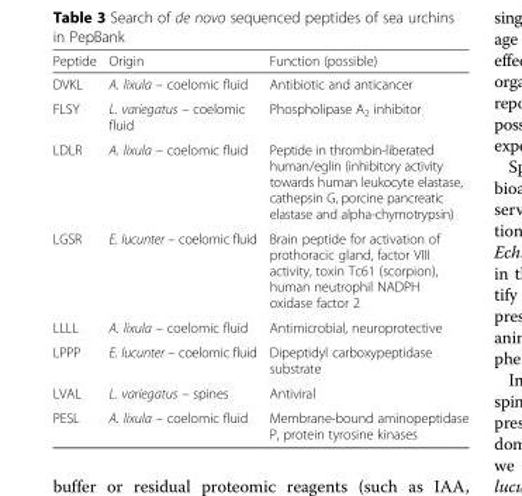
<table><thead><tr><td>Peptide</td><td>Origin</td><td>Function (possible)</td></tr></thead><tbody><tr><td>DVKL</td><td>A. lixula – coelomic fluid</td><td>Antibiotic and anticancer</td></tr><tr><td>FLSY</td><td>L. variegatus – coelomic fluid</td><td>Phospholipase A<sub>2</sub> inhibitor</td></tr><tr><td>LDLR</td><td>A. lixula – coelomic fluid</td><td>Peptide in thrombin-liberated human/eglin (inhibitory activity towards human leukocyte elastase, cathepsin G, porcine pancreatic elastase and alpha-chymotrypsin)</td></tr><tr><td>LGSR</td><td>E. lucunter – coelomic fluid</td><td>Brain peptide for activation of prothoracic gland, factor VIII activity, toxin Tc61 (scorpion), human neutrophil NADPH oxidase factor 2</td></tr><tr><td>LLLL</td><td>A. lixula – coelomic fluid</td><td>Antimicrobial, neuroprotective</td></tr><tr><td>LPPP</td><td>E. lucunter – coelomic fluid</td><td>Dipeptidyl carboxypeptidase substrate</td></tr><tr><td>LVAL</td><td>L. variegatus – spines</td><td>Antiviral</td></tr><tr><td>PESL</td><td>A. lixula – coelomic fluid</td><td>Membrane-bound aminopeptidase P, protein tyrosine kinases</td></tr></tbody></table>